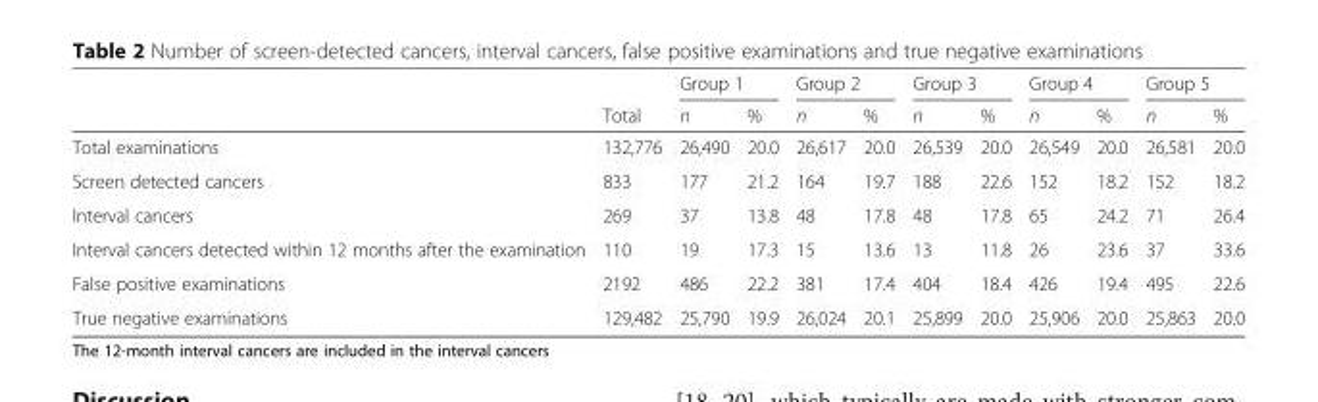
<table><thead><tr><td rowspan="2"></td><td rowspan="2">Total</td><td colspan="2">Group 1</td><td colspan="2">Group 2</td><td colspan="2">Group 3</td><td colspan="2">Group 4</td><td colspan="2">Group 5</td></tr><tr><td>n</td><td>%</td><td>n</td><td>%</td><td>n</td><td>%</td><td>n</td><td>%</td><td>n</td><td>%</td></tr></thead><tbody><tr><td>Total examinations</td><td>132,776</td><td>26,490</td><td>20.0</td><td>26,617</td><td>20.0</td><td>26,539</td><td>20.0</td><td>26,549</td><td>20.0</td><td>26,581</td><td>20.0</td></tr><tr><td>Screen detected cancers</td><td>833</td><td>177</td><td>21.2</td><td>164</td><td>19.7</td><td>188</td><td>22.6</td><td>152</td><td>18.2</td><td>152</td><td>18.2</td></tr><tr><td>Interval cancers</td><td>269</td><td>37</td><td>13.8</td><td>48</td><td>17.8</td><td>48</td><td>17.8</td><td>65</td><td>24.2</td><td>71</td><td>26.4</td></tr><tr><td>Interval cancers detected within 12 months after the examination</td><td>110</td><td>19</td><td>17.3</td><td>15</td><td>13.6</td><td>13</td><td>11.8</td><td>26</td><td>23.6</td><td>37</td><td>33.6</td></tr><tr><td>False positive examinations</td><td>2192</td><td>486</td><td>22.2</td><td>381</td><td>17.4</td><td>404</td><td>18.4</td><td>426</td><td>19.4</td><td>495</td><td>22.6</td></tr><tr><td>True negative examinations</td><td>129,482</td><td>25,790</td><td>19.9</td><td>26,024</td><td>20.1</td><td>25,899</td><td>20.0</td><td>25,906</td><td>20.0</td><td>25,863</td><td>20.0</td></tr></tbody></table>